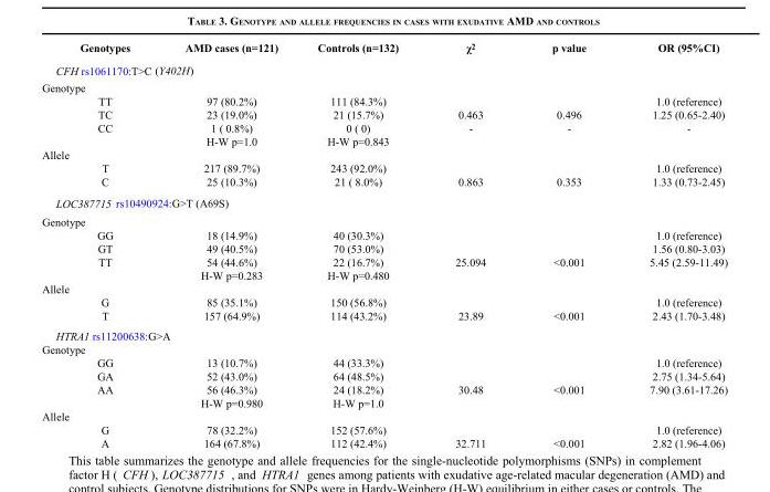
<table><thead><tr><td>Genotypes</td><td>AMD cases (n=121)</td><td>Controls (n=132)</td><td>χ<sup>2</sup></td><td>p value</td><td>OR (95%CI)</td></tr></thead><tbody><tr><td colspan="6">CFH rs1061170:T&gt;C (Y402H)</td></tr><tr><td colspan="6">Genotype</td></tr><tr><td>TT</td><td>97 (80.2%)</td><td>111 (84.3%)</td><td></td><td></td><td>1.0 (reference)</td></tr><tr><td>TC</td><td>23 (19.0%)</td><td>21 (15.7%)</td><td>0.463</td><td>0.496</td><td>1.25 (0.65-2.40)</td></tr><tr><td rowspan="2">CC</td><td>1 ( 0.8%)</td><td>0 ( 0)</td><td>-</td><td>-</td><td>-</td></tr><tr><td>H-W p=1.0</td><td>H-W p=0.843</td><td></td><td></td><td></td></tr><tr><td colspan="6">Allele</td></tr><tr><td>T</td><td>217 (89.7%)</td><td>243 (92.0%)</td><td></td><td></td><td>1.0 (reference)</td></tr><tr><td>C</td><td>25 (10.3%)</td><td>21 ( 8.0%)</td><td>0.863</td><td>0.353</td><td>1.33 (0.73-2.45)</td></tr><tr><td colspan="6">LOC387715 rs10490924:G&gt;T (A69S)</td></tr><tr><td colspan="6">Genotype</td></tr><tr><td>GG</td><td>18 (14.9%)</td><td>40 (30.3%)</td><td></td><td></td><td>1.0 (reference)</td></tr><tr><td>GT</td><td>49 (40.5%)</td><td>70 (53.0%)</td><td></td><td></td><td>1.56 (0.80-3.03)</td></tr><tr><td rowspan="2">TT</td><td>54 (44.6%)</td><td>22 (16.7%)</td><td>25.094</td><td>&lt;0.001</td><td>5.45 (2.59-11.49)</td></tr><tr><td>H-W p=0.283</td><td>H-W p=0.480</td><td></td><td></td><td></td></tr><tr><td colspan="6">Allele</td></tr><tr><td>G</td><td>85 (35.1%)</td><td>150 (56.8%)</td><td></td><td></td><td>1.0 (reference)</td></tr><tr><td>T</td><td>157 (64.9%)</td><td>114 (43.2%)</td><td>23.89</td><td>&lt;0.001</td><td>2.43 (1.70-3.48)</td></tr><tr><td colspan="6">HTRA1 rs11200638:G&gt;A</td></tr><tr><td colspan="6">Genotype</td></tr><tr><td>GG</td><td>13 (10.7%)</td><td>44 (33.3%)</td><td></td><td></td><td>1.0 (reference)</td></tr><tr><td>GA</td><td>52 (43.0%)</td><td>64 (48.5%)</td><td></td><td></td><td>2.75 (1.34-5.64)</td></tr><tr><td rowspan="2">AA</td><td>56 (46.3%)</td><td>24 (18.2%)</td><td>30.48</td><td>&lt;0.001</td><td>7.90 (3.61-17.26)</td></tr><tr><td>H-W p=0.980</td><td>H-W p=1.0</td><td></td><td></td><td></td></tr><tr><td colspan="6">Allele</td></tr><tr><td>G</td><td>78 (32.2%)</td><td>152 (57.6%)</td><td></td><td></td><td>1.0 (reference)</td></tr><tr><td>A</td><td>164 (67.8%)</td><td>112 (42.4%)</td><td>32.711</td><td>&lt;0.001</td><td>2.82 (1.96-4.06)</td></tr></tbody></table>